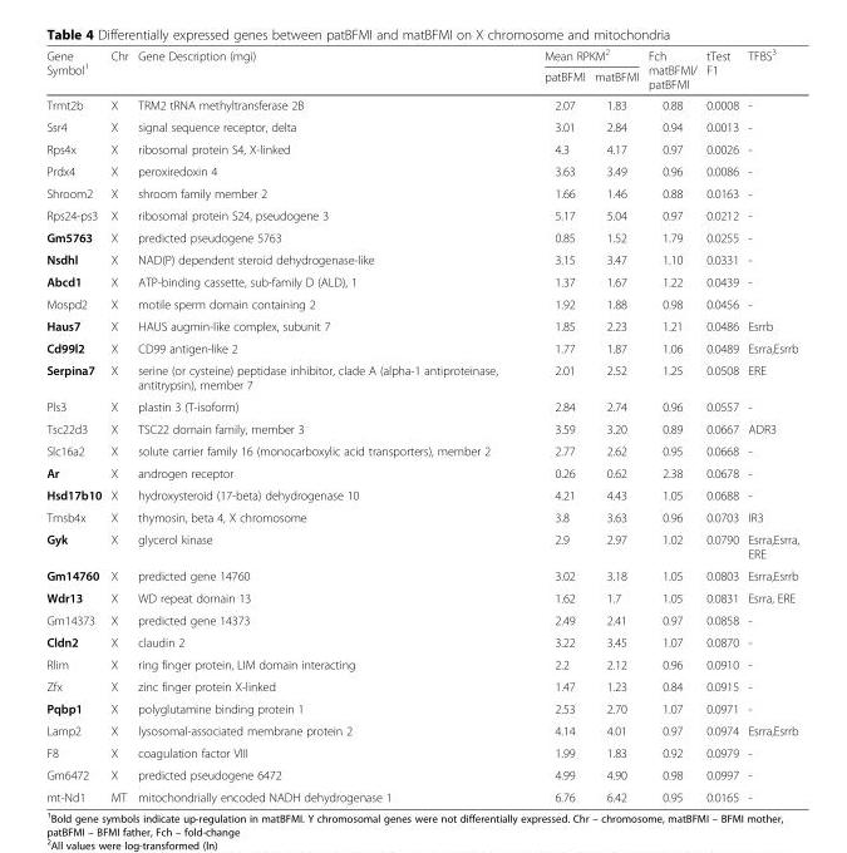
<table><thead><tr><td rowspan="2">Gene Symbol<sup>1</sup></td><td rowspan="2">Chr</td><td rowspan="2">Gene Description (mgi)</td><td colspan="2">Mean RPKM<sup>2</sup></td><td rowspan="2">Fch matBFMI/ patBFMI</td><td rowspan="2">tTest F1</td><td rowspan="2">TFBS<sup>3</sup></td></tr><tr><td>patBFMI</td><td>matBFMI</td></tr></thead><tbody><tr><td>Trmt2b</td><td>X</td><td>TRM2 tRNA methyltransferase 2B</td><td>2.07</td><td>1.83</td><td>0.88</td><td>0.0008</td><td>-</td></tr><tr><td>Ssr4</td><td>X</td><td>signal sequence receptor, delta</td><td>3.01</td><td>2.84</td><td>0.94</td><td>0.0013</td><td>-</td></tr><tr><td>Rps4x</td><td>X</td><td>ribosomal protein S4, X-linked</td><td>4.3</td><td>4.17</td><td>0.97</td><td>0.0026</td><td>-</td></tr><tr><td>Prdx4</td><td>X</td><td>peroxiredoxin 4</td><td>3.63</td><td>3.49</td><td>0.96</td><td>0.0086</td><td>-</td></tr><tr><td>Shroom2</td><td>X</td><td>shroom family member 2</td><td>1.66</td><td>1.46</td><td>0.88</td><td>0.0163</td><td>-</td></tr><tr><td>Rps24-ps3</td><td>X</td><td>ribosomal protein S24, pseudogene 3</td><td>5.17</td><td>5.04</td><td>0.97</td><td>0.0212</td><td>-</td></tr><tr><td>Gm5763</td><td>X</td><td>predicted pseudogene 5763</td><td>0.85</td><td>1.52</td><td>1.79</td><td>0.0255</td><td>-</td></tr><tr><td>Nsdhl</td><td>X</td><td>NAD(P) dependent steroid dehydrogenase-like</td><td>3.15</td><td>3.47</td><td>1.10</td><td>0.0331</td><td>-</td></tr><tr><td>Abcd1</td><td>X</td><td>ATP-binding cassette, sub-family D (ALD), 1</td><td>1.37</td><td>1.67</td><td>1.22</td><td>0.0439</td><td>-</td></tr><tr><td>Mospd2</td><td>X</td><td>motile sperm domain containing 2</td><td>1.92</td><td>1.88</td><td>0.98</td><td>0.0456</td><td>-</td></tr><tr><td>Haus7</td><td>X</td><td>HAUS augmin-like complex, subunit 7</td><td>1.85</td><td>2.23</td><td>1.21</td><td>0.0486</td><td>Esrrb</td></tr><tr><td>Cd99l2</td><td>X</td><td>CD99 antigen-like 2</td><td>1.77</td><td>1.87</td><td>1.06</td><td>0.0489</td><td>Esrra,Esrrb</td></tr><tr><td>Serpina7</td><td>X</td><td>serine (or cysteine) peptidase inhibitor, clade A (alpha-1 antiproteinase, antitrypsin), member 7</td><td>2.01</td><td>2.52</td><td>1.25</td><td>0.0508</td><td>ERE</td></tr><tr><td>Pls3</td><td>X</td><td>plastin 3 (T-isoform)</td><td>2.84</td><td>2.74</td><td>0.96</td><td>0.0557</td><td>-</td></tr><tr><td>Tsc22d3</td><td>X</td><td>TSC22 domain family, member 3</td><td>3.59</td><td>3.20</td><td>0.89</td><td>0.0667</td><td>ADR3</td></tr><tr><td>Slc16a2</td><td>X</td><td>solute carrier family 16 (monocarboxylic acid transporters), member 2</td><td>2.77</td><td>2.62</td><td>0.95</td><td>0.0668</td><td>-</td></tr><tr><td>Ar</td><td>X</td><td>androgen receptor</td><td>0.26</td><td>0.62</td><td>2.38</td><td>0.0678</td><td>-</td></tr><tr><td>Hsd17b10</td><td>X</td><td>hydroxysteroid (17-beta) dehydrogenase 10</td><td>4.21</td><td>4.43</td><td>1.05</td><td>0.0688</td><td>-</td></tr><tr><td>Tmsb4x</td><td>X</td><td>thymosin, beta 4, X chromosome</td><td>3.8</td><td>3.63</td><td>0.96</td><td>0.0703</td><td>IR3</td></tr><tr><td>Gyk</td><td>X</td><td>glycerol kinase</td><td>2.9</td><td>2.97</td><td>1.02</td><td>0.0790</td><td>Esrra,Esrra, ERE</td></tr><tr><td>Gm14760</td><td>X</td><td>predicted gene 14760</td><td>3.02</td><td>3.18</td><td>1.05</td><td>0.0803</td><td>Esrra,Esrrb</td></tr><tr><td>Wdr13</td><td>X</td><td>WD repeat domain 13</td><td>1.62</td><td>1.7</td><td>1.05</td><td>0.0831</td><td>Esrra, ERE</td></tr><tr><td>Gm14373</td><td>X</td><td>predicted gene 14373</td><td>2.49</td><td>2.41</td><td>0.97</td><td>0.0858</td><td>-</td></tr><tr><td>Cldn2</td><td>X</td><td>claudin 2</td><td>3.22</td><td>3.45</td><td>1.07</td><td>0.0870</td><td>-</td></tr><tr><td>Rlim</td><td>X</td><td>ring finger protein, LIM domain interacting</td><td>2.2</td><td>2.12</td><td>0.96</td><td>0.0910</td><td>-</td></tr><tr><td>Zfx</td><td>X</td><td>zinc finger protein X-linked</td><td>1.47</td><td>1.23</td><td>0.84</td><td>0.0915</td><td>-</td></tr><tr><td>Pqbp1</td><td>X</td><td>polyglutamine binding protein 1</td><td>2.53</td><td>2.70</td><td>1.07</td><td>0.0971</td><td>-</td></tr><tr><td>Lamp2</td><td>X</td><td>lysosomal-associated membrane protein 2</td><td>4.14</td><td>4.01</td><td>0.97</td><td>0.0974</td><td>Esrra,Esrrb</td></tr><tr><td>F8</td><td>X</td><td>coagulation factor VIII</td><td>1.99</td><td>1.83</td><td>0.92</td><td>0.0979</td><td>-</td></tr><tr><td>Gm6472</td><td>X</td><td>predicted pseudogene 6472</td><td>4.99</td><td>4.90</td><td>0.98</td><td>0.0997</td><td>-</td></tr><tr><td>mt-Nd1</td><td>MT</td><td>mitochondrially encoded NADH dehydrogenase 1</td><td>6.76</td><td>6.42</td><td>0.95</td><td>0.0165</td><td>-</td></tr></tbody></table>